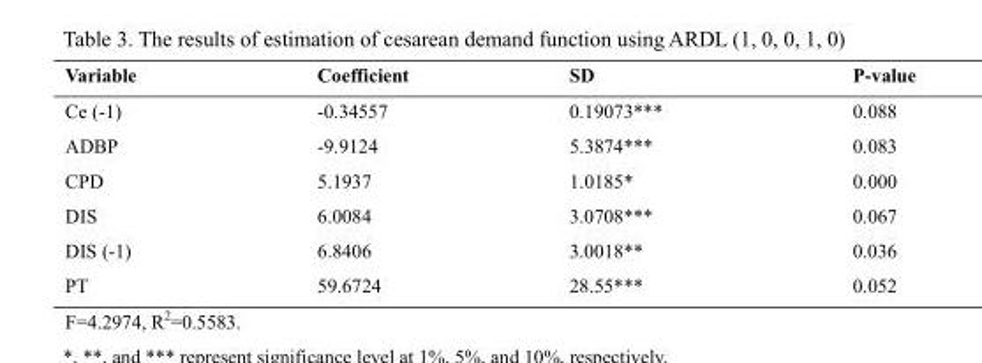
<table><thead><tr><td>Variable</td><td>Coefficient</td><td>SD</td><td>P-value</td></tr></thead><tbody><tr><td>Ce (-1)</td><td>-0.34557</td><td>0.19073***</td><td>0.088</td></tr><tr><td>ADBP</td><td>-9.9124</td><td>5.3874***</td><td>0.083</td></tr><tr><td>CPD</td><td>5.1937</td><td>1.0185*</td><td>0.000</td></tr><tr><td>DIS</td><td>6.0084</td><td>3.0708***</td><td>0.067</td></tr><tr><td>DIS (-1)</td><td>6.8406</td><td>3.0018**</td><td>0.036</td></tr><tr><td>PT</td><td>59.6724</td><td>28.55***</td><td>0.052</td></tr></tbody></table>